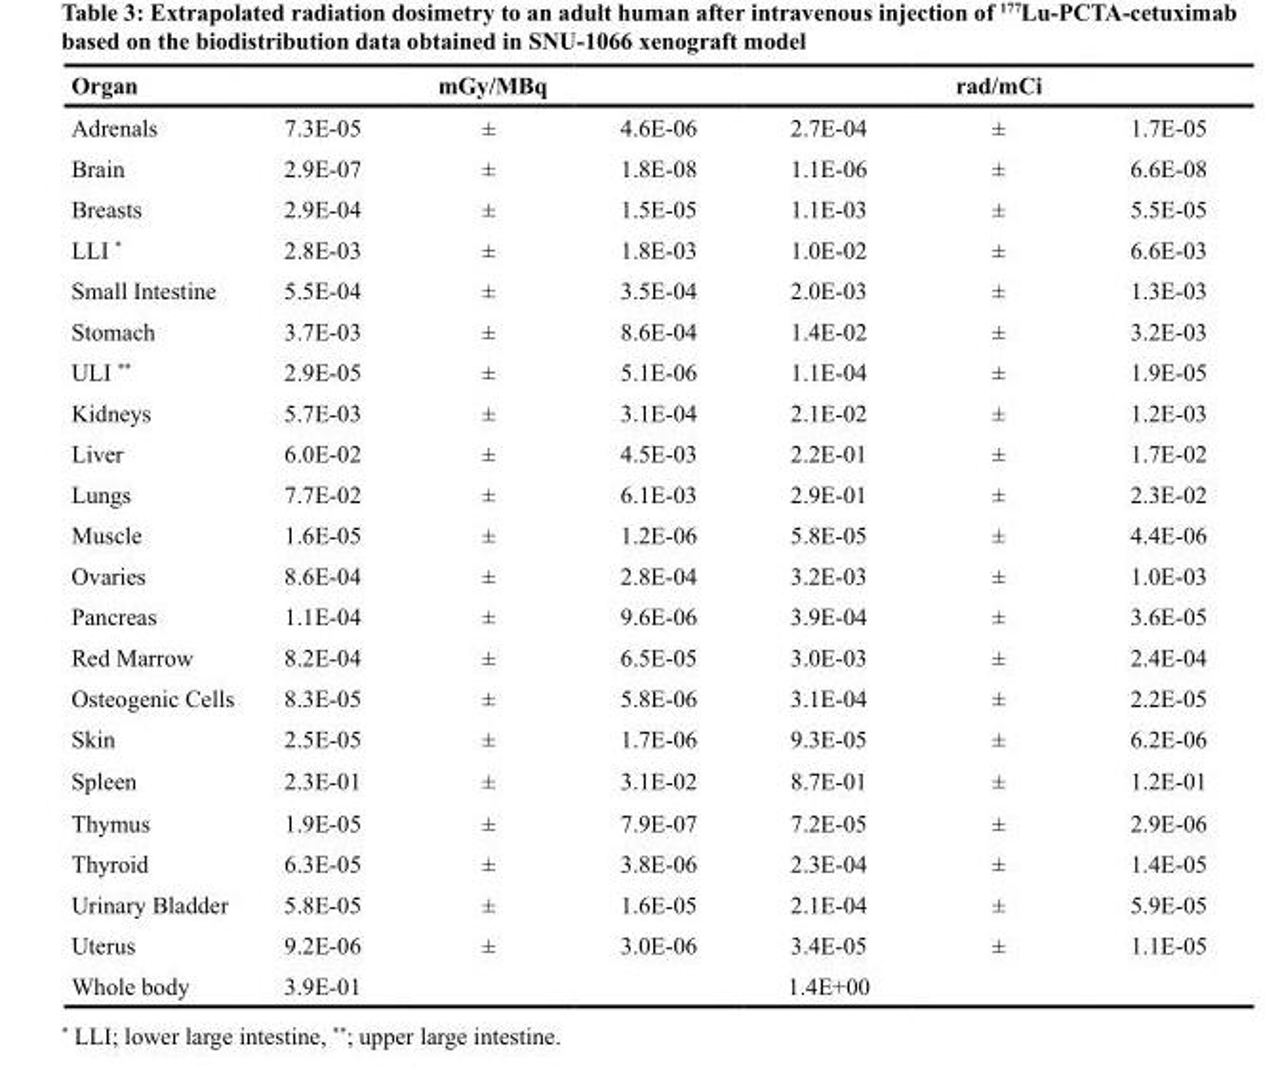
<table><thead><tr><td rowspan="2">Organ Adrenals</td><td colspan="3">mGy/MBq</td><td colspan="3">rad/mCi</td></tr><tr><td>7.3E-05</td><td>±</td><td>4.6E-06</td><td>2.7E-04</td><td>±</td><td>1.7E-05</td></tr></thead><tbody><tr><td>Brain</td><td>2.9E-07</td><td>±</td><td>1.8E-08</td><td>1.1E-06</td><td>±</td><td>6.6E-08</td></tr><tr><td>Breasts</td><td>2.9E-04</td><td>±</td><td>1.5E-05</td><td>1.1E-03</td><td>±</td><td>5.5E-05</td></tr><tr><td>LLI *</td><td>2.8E-03</td><td>±</td><td>1.8E-03</td><td>1.0E-02</td><td>±</td><td>6.6E-03</td></tr><tr><td>Small Intestine</td><td>5.5E-04</td><td>±</td><td>3.5E-04</td><td>2.0E-03</td><td>±</td><td>1.3E-03</td></tr><tr><td>Stomach</td><td>3.7E-03</td><td>±</td><td>8.6E-04</td><td>1.4E-02</td><td>±</td><td>3.2E-03</td></tr><tr><td>ULI **</td><td>2.9E-05</td><td>±</td><td>5.1E-06</td><td>1.1E-04</td><td>±</td><td>1.9E-05</td></tr><tr><td>Kidneys</td><td>5.7E-03</td><td>±</td><td>3.1E-04</td><td>2.1E-02</td><td>±</td><td>1.2E-03</td></tr><tr><td>Liver</td><td>6.0E-02</td><td>±</td><td>4.5E-03</td><td>2.2E-01</td><td>±</td><td>1.7E-02</td></tr><tr><td>Lungs</td><td>7.7E-02</td><td>±</td><td>6.1E-03</td><td>2.9E-01</td><td>±</td><td>2.3E-02</td></tr><tr><td>Muscle</td><td>1.6E-05</td><td>±</td><td>1.2E-06</td><td>5.8E-05</td><td>±</td><td>4.4E-06</td></tr><tr><td>Ovaries</td><td>8.6E-04</td><td>±</td><td>2.8E-04</td><td>3.2E-03</td><td>±</td><td>1.0E-03</td></tr><tr><td>Pancreas</td><td>1.1E-04</td><td>±</td><td>9.6E-06</td><td>3.9E-04</td><td>±</td><td>3.6E-05</td></tr><tr><td>Red Marrow</td><td>8.2E-04</td><td>±</td><td>6.5E-05</td><td>3.0E-03</td><td>±</td><td>2.4E-04</td></tr><tr><td>Osteogenic Cells</td><td>8.3E-05</td><td>±</td><td>5.8E-06</td><td>3.1E-04</td><td>±</td><td>2.2E-05</td></tr><tr><td>Skin</td><td>2.5E-05</td><td>±</td><td>1.7E-06</td><td>9.3E-05</td><td>±</td><td>6.2E-06</td></tr><tr><td>Spleen</td><td>2.3E-01</td><td>±</td><td>3.1E-02</td><td>8.7E-01</td><td>±</td><td>1.2E-01</td></tr><tr><td>Thymus</td><td>1.9E-05</td><td>±</td><td>7.9E-07</td><td>7.2E-05</td><td>±</td><td>2.9E-06</td></tr><tr><td>Thyroid</td><td>6.3E-05</td><td>±</td><td>3.8E-06</td><td>2.3E-04</td><td>±</td><td>1.4E-05</td></tr><tr><td>Urinary Bladder</td><td>5.8E-05</td><td>±</td><td>1.6E-05</td><td>2.1E-04</td><td>±</td><td>5.9E-05</td></tr><tr><td>Uterus</td><td>9.2E-06</td><td>±</td><td>3.0E-06</td><td>3.4E-05</td><td>±</td><td>1.1E-05</td></tr><tr><td>Whole body</td><td>3.9E-01</td><td></td><td></td><td>1.4E+00</td><td></td><td></td></tr></tbody></table>